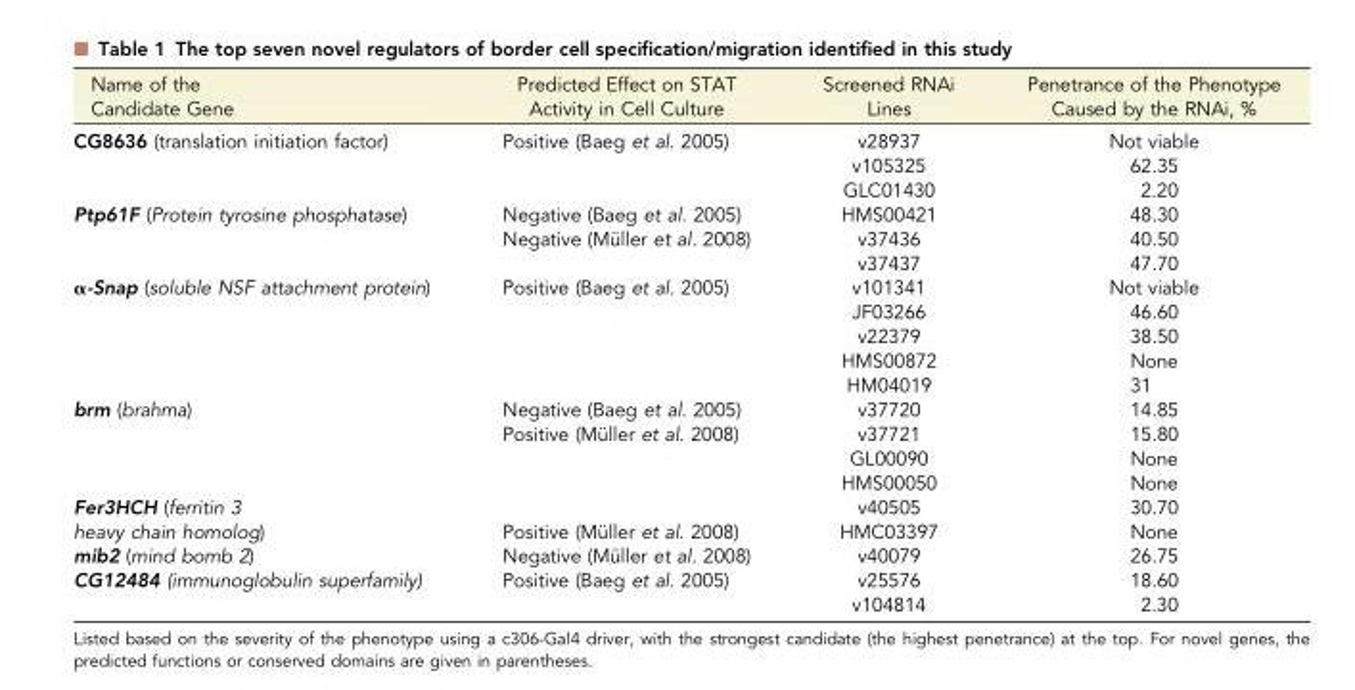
<table><thead><tr><td>Name of the Candidate Gene</td><td>Predicted Effect on STAT Activity in Cell Culture</td><td>Screened RNAi Lines</td><td>Penetrance of the Phenotype Caused by the RNAi, %</td></tr></thead><tbody><tr><td rowspan="3">CG8636 (translation initiation factor)</td><td rowspan="3">Positive (Baeg et al. 2005)</td><td>v28937</td><td>Not viable</td></tr><tr><td>v105325</td><td>62.35</td></tr><tr><td>GLC01430</td><td>2.20</td></tr><tr><td rowspan="3">Ptp61F (Protein tyrosine phosphatase)</td><td>Negative (Baeg et al. 2005)</td><td>HMS00421</td><td>48.30</td></tr><tr><td>Negative (Müller et al. 2008)</td><td>v37436</td><td>40.50</td></tr><tr><td></td><td>v37437</td><td>47.70</td></tr><tr><td rowspan="5">α-Snap (soluble NSF attachment protein)</td><td>Positive (Baeg et al. 2005)</td><td>v101341</td><td>Not viable</td></tr><tr><td></td><td>JF03266</td><td>46.60</td></tr><tr><td></td><td>v22379</td><td>38.50</td></tr><tr><td></td><td>HMS00872</td><td>None</td></tr><tr><td></td><td>HM04019</td><td>31</td></tr><tr><td rowspan="4">brm (brahma)</td><td>Negative (Baeg et al. 2005)</td><td>v37720</td><td>14.85</td></tr><tr><td>Positive (Müller et al. 2008)</td><td>v37721</td><td>15.80</td></tr><tr><td></td><td>GL00090</td><td>None</td></tr><tr><td></td><td>HMS00050</td><td>None</td></tr><tr><td rowspan="2">Fer3HCH (ferritin 3 heavy chain homolog)</td><td></td><td>v40505</td><td>30.70</td></tr><tr><td>Positive (Müller et al. 2008)</td><td>HMC03397</td><td>None</td></tr><tr><td>mib2 (mind bomb 2)</td><td>Negative (Müller et al. 2008)</td><td>v40079</td><td>26.75</td></tr><tr><td rowspan="2">CG12484 (immunoglobulin superfamily)</td><td rowspan="2">Positive (Baeg et al. 2005)</td><td>v25576</td><td>18.60</td></tr><tr><td>v104814</td><td>2.30</td></tr></tbody></table>